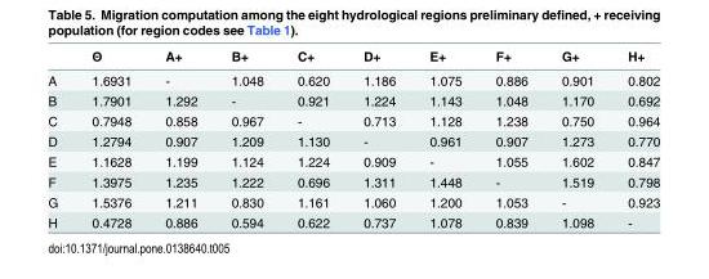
<table><thead><tr><td></td><td>Θ</td><td>A+</td><td>B+</td><td>C+</td><td>D+</td><td>E+</td><td>F+</td><td>G+</td><td>H+</td></tr></thead><tbody><tr><td>A</td><td>1.6931</td><td>-</td><td>1.048</td><td>0.620</td><td>1.186</td><td>1.075</td><td>0.886</td><td>0.901</td><td>0.802</td></tr><tr><td>B</td><td>1.7901</td><td>1.292</td><td>-</td><td>0.921</td><td>1.224</td><td>1.143</td><td>1.048</td><td>1.170</td><td>0.692</td></tr><tr><td>C</td><td>0.7948</td><td>0.858</td><td>0.967</td><td>-</td><td>0.713</td><td>1.128</td><td>1.238</td><td>0.750</td><td>0.964</td></tr><tr><td>D</td><td>1.2794</td><td>0.907</td><td>1.209</td><td>1.130</td><td>-</td><td>0.961</td><td>0.907</td><td>1.273</td><td>0.770</td></tr><tr><td>E</td><td>1.1628</td><td>1.199</td><td>1.124</td><td>1.224</td><td>0.909</td><td>-</td><td>1.055</td><td>1.602</td><td>0.847</td></tr><tr><td>F</td><td>1.3975</td><td>1.235</td><td>1.222</td><td>0.696</td><td>1.311</td><td>1.448</td><td>-</td><td>1.519</td><td>0.798</td></tr><tr><td>G</td><td>1.5376</td><td>1.211</td><td>0.830</td><td>1.161</td><td>1.060</td><td>1.200</td><td>1.053</td><td>-</td><td>0.923</td></tr><tr><td>H</td><td>0.4728</td><td>0.886</td><td>0.594</td><td>0.622</td><td>0.737</td><td>1.078</td><td>0.839</td><td>1.098</td><td>-</td></tr></tbody></table>